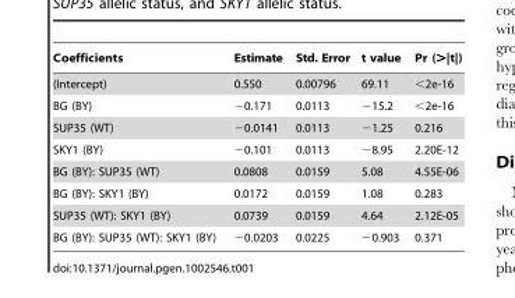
<table><thead><tr><td>Coefficients</td><td>Estimate</td><td>Std. Error</td><td>t value</td><td>Pr (&gt;|t|)</td></tr></thead><tbody><tr><td>(Intercept)</td><td>0.550</td><td>0.00796</td><td>69.11</td><td>&lt;2e-16</td></tr><tr><td>BG (BY)</td><td>−0.171</td><td>0.0113</td><td>−15.2</td><td>&lt;2e-16</td></tr><tr><td>SUP35 (WT)</td><td>−0.0141</td><td>0.0113</td><td>−1.25</td><td>0.216</td></tr><tr><td>SKY1 (BY)</td><td>−0.101</td><td>0.0113</td><td>−8.95</td><td>2.20E-12</td></tr><tr><td>BG (BY): SUP35 (WT)</td><td>0.0808</td><td>0.0159</td><td>5.08</td><td>4.55E-06</td></tr><tr><td>BG (BY): SKY1 (BY)</td><td>0.0172</td><td>0.0159</td><td>1.08</td><td>0.283</td></tr><tr><td>SUP35 (WT): SKY1 (BY)</td><td>0.0739</td><td>0.0159</td><td>4.64</td><td>2.12E-05</td></tr><tr><td>BG (BY): SUP35 (WT): SKY1 (BY)</td><td>−0.0203</td><td>0.0225</td><td>−0.903</td><td>0.371</td></tr></tbody></table>